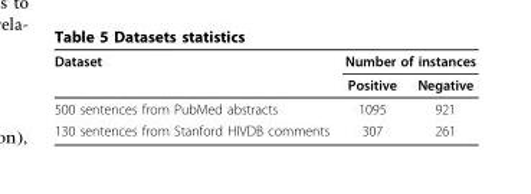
<table><thead><tr><td rowspan="2">Dataset</td><td colspan="2">Number of instances</td></tr><tr><td>Positive</td><td>Negative</td></tr></thead><tbody><tr><td>500 sentences from PubMed abstracts</td><td>1095</td><td>921</td></tr><tr><td>130 sentences from Stanford HIVDB comments</td><td>307</td><td>261</td></tr></tbody></table>